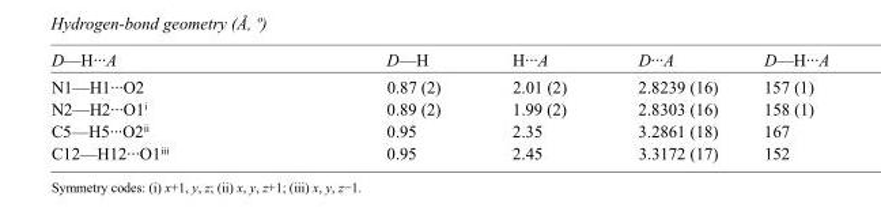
<table><tbody><tr><td>D—H···A</td><td>D—H</td><td>H···A</td><td>D···A</td><td>D—H···A</td></tr><tr><td>N1—H1···O2</td><td>0.87 (2)</td><td>2.01 (2)</td><td>2.8239 (16)</td><td>157 (1)</td></tr><tr><td>N2—H2···O1<sup>i</sup></td><td>0.89 (2)</td><td>1.99 (2)</td><td>2.8303 (16)</td><td>158 (1)</td></tr><tr><td>C5—H5···O2<sup>ii</sup></td><td>0.95</td><td>2.35</td><td>3.2861 (18)</td><td>167</td></tr><tr><td>C12—H12···O1<sup>iii</sup></td><td>0.95</td><td>2.45</td><td>3.3172 (17)</td><td>152</td></tr></tbody></table>